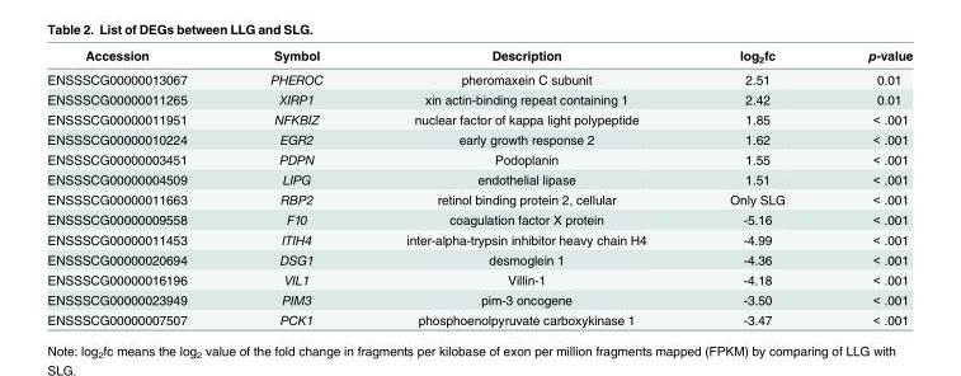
<table><thead><tr><td>Accession</td><td>Symbol</td><td>Description</td><td>log<sub>2</sub>fc</td><td>p-value</td></tr></thead><tbody><tr><td>ENSSSCG00000013067</td><td>PHEROC</td><td>pheromaxein C subunit</td><td>2.51</td><td>0.01</td></tr><tr><td>ENSSSCG00000011265</td><td>XIRP1</td><td>xin actin-binding repeat containing 1</td><td>2.42</td><td>0.01</td></tr><tr><td>ENSSSCG00000011951</td><td>NFKBIZ</td><td>nuclear factor of kappa light polypeptide</td><td>1.85</td><td>&lt; .001</td></tr><tr><td>ENSSSCG00000010224</td><td>EGR2</td><td>early growth response 2</td><td>1.62</td><td>&lt; .001</td></tr><tr><td>ENSSSCG00000003451</td><td>PDPN</td><td>Podoplanin</td><td>1.55</td><td>&lt; .001</td></tr><tr><td>ENSSSCG00000004509</td><td>LIPG</td><td>endothelial lipase</td><td>1.51</td><td>&lt; .001</td></tr><tr><td>ENSSSCG00000011663</td><td>RBP2</td><td>retinol binding protein 2, cellular</td><td>Only SLG</td><td>&lt; .001</td></tr><tr><td>ENSSSCG00000009558</td><td>F10</td><td>coagulation factor X protein</td><td>-5.16</td><td>&lt; .001</td></tr><tr><td>ENSSSCG00000011453</td><td>ITIH4</td><td>inter-alpha-trypsin inhibitor heavy chain H4</td><td>-4.99</td><td>&lt; .001</td></tr><tr><td>ENSSSCG00000020694</td><td>DSG1</td><td>desmoglein 1</td><td>-4.36</td><td>&lt; .001</td></tr><tr><td>ENSSSCG00000016196</td><td>VIL1</td><td>Villin-1</td><td>-4.18</td><td>&lt; .001</td></tr><tr><td>ENSSSCG00000023949</td><td>PIM3</td><td>pim-3 oncogene</td><td>-3.50</td><td>&lt; .001</td></tr><tr><td>ENSSSCG00000007507</td><td>PCK1</td><td>phosphoenolpyruvate carboxykinase 1</td><td>-3.47</td><td>&lt; .001</td></tr></tbody></table>